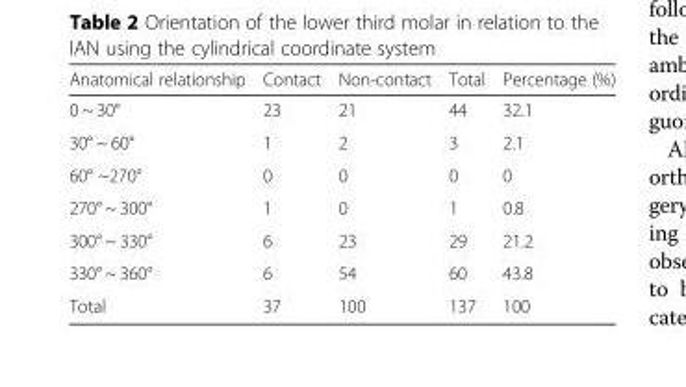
<table><thead><tr><td>Anatomical relationship</td><td>Contact</td><td>Non-contact</td><td>Total</td><td>Percentage (%)</td></tr></thead><tbody><tr><td>0 ~ 30°</td><td>23</td><td>21</td><td>44</td><td>32.1</td></tr><tr><td>30° ~ 60°</td><td>1</td><td>2</td><td>3</td><td>2.1</td></tr><tr><td>60° ~270°</td><td>0</td><td>0</td><td>0</td><td>0</td></tr><tr><td>270° ~ 300°</td><td>1</td><td>0</td><td>1</td><td>0.8</td></tr><tr><td>300° ~ 330°</td><td>6</td><td>23</td><td>29</td><td>21.2</td></tr><tr><td>330° ~ 360°</td><td>6</td><td>54</td><td>60</td><td>43.8</td></tr><tr><td>Total</td><td>37</td><td>100</td><td>137</td><td>100</td></tr></tbody></table>